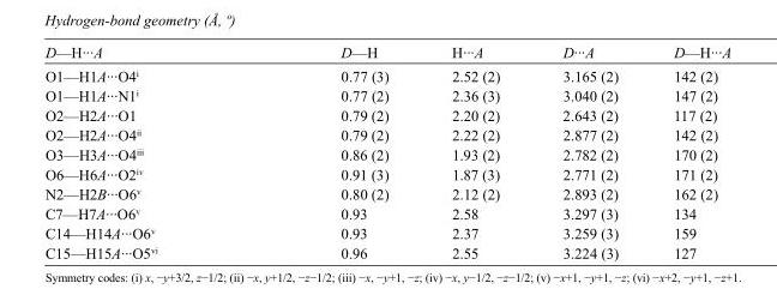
<table><tbody><tr><td>D—H···A</td><td>D—H</td><td>H···A</td><td>D···A</td><td>D—H···A</td></tr><tr><td>O1—H1A···O4<sup>i</sup></td><td>0.77 (3)</td><td>2.52 (2)</td><td>3.165 (2)</td><td>142 (2)</td></tr><tr><td>O1—H1A···N1<sup>i</sup></td><td>0.77 (2)</td><td>2.36 (3)</td><td>3.040 (2)</td><td>147 (2)</td></tr><tr><td>O2—H2A···O1</td><td>0.79 (2)</td><td>2.20 (2)</td><td>2.643 (2)</td><td>117 (2)</td></tr><tr><td>O2—H2A···O4<sup>ii</sup></td><td>0.79 (2)</td><td>2.22 (2)</td><td>2.877 (2)</td><td>142 (2)</td></tr><tr><td>O3—H3A···O4<sup>iii</sup></td><td>0.86 (2)</td><td>1.93 (2)</td><td>2.782 (2)</td><td>170 (2)</td></tr><tr><td>O6—H6A···O2<sup>iv</sup></td><td>0.91 (3)</td><td>1.87 (3)</td><td>2.771 (2)</td><td>171 (2)</td></tr><tr><td>N2—H2B···O6<sup>v</sup></td><td>0.80 (2)</td><td>2.12 (2)</td><td>2.893 (2)</td><td>162 (2)</td></tr><tr><td>C7—H7A···O6<sup>v</sup></td><td>0.93</td><td>2.58</td><td>3.297 (3)</td><td>134</td></tr><tr><td>C14—H14A···O6<sup>v</sup></td><td>0.93</td><td>2.37</td><td>3.259 (3)</td><td>159</td></tr><tr><td>C15—H15A···O5<sup>vi</sup></td><td>0.96</td><td>2.55</td><td>3.224 (3)</td><td>127</td></tr></tbody></table>